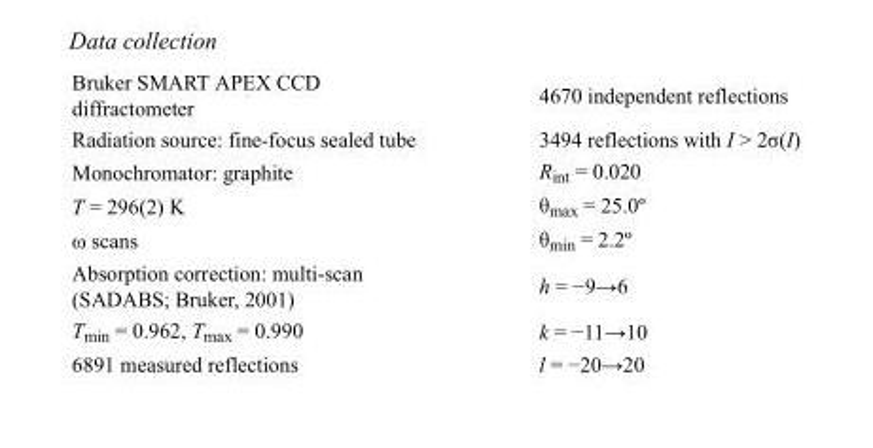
<table><tbody><tr><td>Bruker SMART APEX CCD diffractometer</td><td>4670 independent reflections</td></tr><tr><td>Radiation source: fine-focus sealed tube</td><td>3494 reflections with I &gt; 2σ(I)</td></tr><tr><td>Monochromator: graphite</td><td>R<sub>int</sub> = 0.020</td></tr><tr><td>T = 296(2) K</td><td>θ<sub>max</sub> = 25.0º</td></tr><tr><td>ω scans</td><td>θ<sub>min</sub> = 2.2º</td></tr><tr><td>Absorption correction: multi-scan (SADABS; Bruker, 2001)</td><td>h = −9→6</td></tr><tr><td>T<sub>min</sub> = 0.962, T<sub>max</sub> = 0.990</td><td>k = −11→10</td></tr><tr><td>6891 measured reflections</td><td>l = −20→20</td></tr></tbody></table>